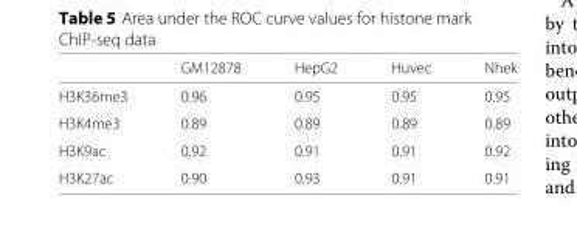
<table><thead><tr><td></td><td>GM12878</td><td>HepG2</td><td>Huvec</td><td>Nhek</td></tr></thead><tbody><tr><td>H3K36me3</td><td>0.96</td><td>0.95</td><td>0.95</td><td>0.95</td></tr><tr><td>H3K4me3</td><td>0.89</td><td>0.89</td><td>0.89</td><td>0.89</td></tr><tr><td>H3K9ac</td><td>0.92</td><td>0.91</td><td>0.91</td><td>0.92</td></tr><tr><td>H3K27ac</td><td>0.90</td><td>0.93</td><td>0.91</td><td>0.91</td></tr></tbody></table>